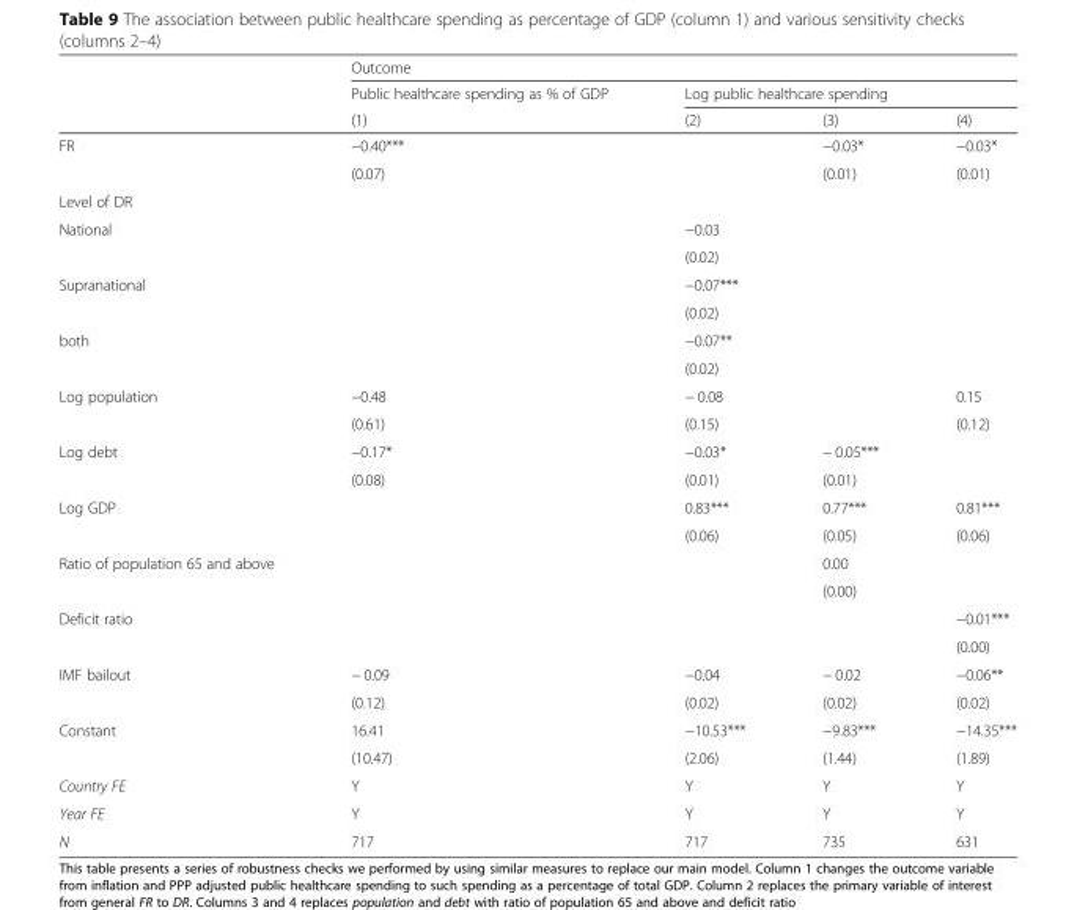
<table><thead><tr><td rowspan="3"></td><td colspan="4">Outcome</td></tr><tr><td rowspan="2">Public healthcare spending as % of GDP (1)</td><td colspan="3">Log public healthcare spending</td></tr><tr><td>(2)</td><td>(3)</td><td>(4)</td></tr></thead><tbody><tr><td rowspan="2">FR</td><td>−0.40***</td><td></td><td>−0.03*</td><td>−0.03*</td></tr><tr><td>(0.07)</td><td></td><td>(0.01)</td><td>(0.01)</td></tr><tr><td colspan="5">Level of DR</td></tr><tr><td rowspan="2">National</td><td></td><td>−0.03</td><td></td><td></td></tr><tr><td></td><td>(0.02)</td><td></td><td></td></tr><tr><td rowspan="2">Supranational</td><td></td><td>−0.07***</td><td></td><td></td></tr><tr><td></td><td>(0.02)</td><td></td><td></td></tr><tr><td rowspan="2">both</td><td></td><td>−0.07**</td><td></td><td></td></tr><tr><td></td><td>(0.02)</td><td></td><td></td></tr><tr><td rowspan="2">Log population</td><td>−0.48</td><td>− 0.08</td><td></td><td>0.15</td></tr><tr><td>(0.61)</td><td>(0.15)</td><td></td><td>(0.12)</td></tr><tr><td rowspan="2">Log debt</td><td>−0.17*</td><td>−0.03*</td><td>− 0.05***</td><td></td></tr><tr><td>(0.08)</td><td>(0.01)</td><td>(0.01)</td><td></td></tr><tr><td rowspan="2">Log GDP</td><td></td><td>0.83***</td><td>0.77***</td><td>0.81***</td></tr><tr><td></td><td>(0.06)</td><td>(0.05)</td><td>(0.06)</td></tr><tr><td rowspan="2">Ratio of population 65 and above</td><td></td><td></td><td>0.00</td><td></td></tr><tr><td></td><td></td><td>(0.00)</td><td></td></tr><tr><td rowspan="2">Deficit ratio</td><td></td><td></td><td></td><td>−0.01***</td></tr><tr><td></td><td></td><td></td><td>(0.00)</td></tr><tr><td rowspan="2">IMF bailout</td><td>− 0.09</td><td>−0.04</td><td>− 0.02</td><td>−0.06**</td></tr><tr><td>(0.12)</td><td>(0.02)</td><td>(0.02)</td><td>(0.02)</td></tr><tr><td rowspan="2">Constant</td><td>16.41</td><td>−10.53***</td><td>−9.83***</td><td>−14.35***</td></tr><tr><td>(10.47)</td><td>(2.06)</td><td>(1.44)</td><td>(1.89)</td></tr><tr><td>Country FE</td><td>Y</td><td>Y</td><td>Y</td><td>Y</td></tr><tr><td>Year FE</td><td>Y</td><td>Y</td><td>Y</td><td>Y</td></tr><tr><td>N</td><td>717</td><td>717</td><td>735</td><td>631</td></tr></tbody></table>